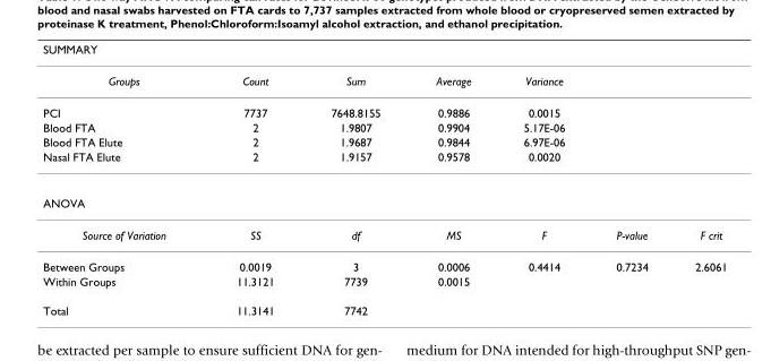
<table><thead><tr><td colspan="7">SUMMARY</td></tr><tr><td>Groups</td><td>Count</td><td>Sum</td><td>Average</td><td>Variance</td><td></td><td></td></tr></thead><tbody><tr><td>PCI</td><td>7737</td><td>7648.8155</td><td>0.9886</td><td>0.0015</td><td></td><td></td></tr><tr><td>Blood FTA</td><td>2</td><td>1.9807</td><td>0.9904</td><td>5.17E-06</td><td></td><td></td></tr><tr><td>Blood FTA Elute</td><td>2</td><td>1.9687</td><td>0.9844</td><td>6.97E-06</td><td></td><td></td></tr><tr><td>Nasal FTA Elute</td><td>2</td><td>1.9157</td><td>0.9578</td><td>0.0020</td><td></td><td></td></tr><tr><td colspan="7">ANOVA</td></tr><tr><td>Source of Variation</td><td>SS</td><td>df</td><td>MS</td><td>F</td><td>P-value</td><td>F crit</td></tr><tr><td>Between Groups</td><td>0.0019</td><td>3</td><td>0.0006</td><td>0.4414</td><td>0.7234</td><td>2.6061</td></tr><tr><td>Within Groups</td><td>11.3121</td><td>7739</td><td>0.0015</td><td></td><td></td><td></td></tr><tr><td>Total</td><td>11.3141</td><td>7742</td><td></td><td></td><td></td><td></td></tr></tbody></table>